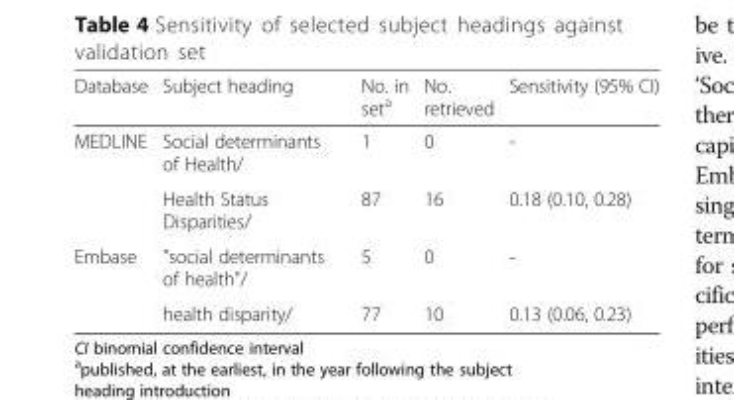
<table><thead><tr><td>Database</td><td>Subject heading</td><td>No. in set<sup>a</sup></td><td>No. retrieved</td><td>Sensitivity (95% CI)</td></tr></thead><tbody><tr><td rowspan="2">MEDLINE</td><td>Social determinants of Health/</td><td>1</td><td>0</td><td>-</td></tr><tr><td>Health Status Disparities/</td><td>87</td><td>16</td><td>0.18 (0.10, 0.28)</td></tr><tr><td rowspan="2">Embase</td><td>&quot;social determinants of health&quot;/</td><td>5</td><td>0</td><td>-</td></tr><tr><td>health disparity/</td><td>77</td><td>10</td><td>0.13 (0.06, 0.23)</td></tr></tbody></table>